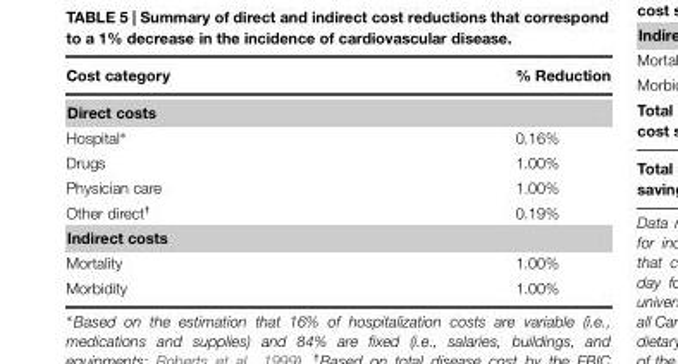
<table><thead><tr><td>Cost category</td><td>% Reduction</td></tr></thead><tbody><tr><td colspan="2">Direct costs</td></tr><tr><td>Hospital∗</td><td>0.16%</td></tr><tr><td>Drugs</td><td>1.00%</td></tr><tr><td>Physician care</td><td>1.00%</td></tr><tr><td>Other direct<sup>†</sup></td><td>0.19%</td></tr><tr><td colspan="2">Indirect costs</td></tr><tr><td>Mortality</td><td>1.00%</td></tr><tr><td>Morbidity</td><td>1.00%</td></tr></tbody></table>